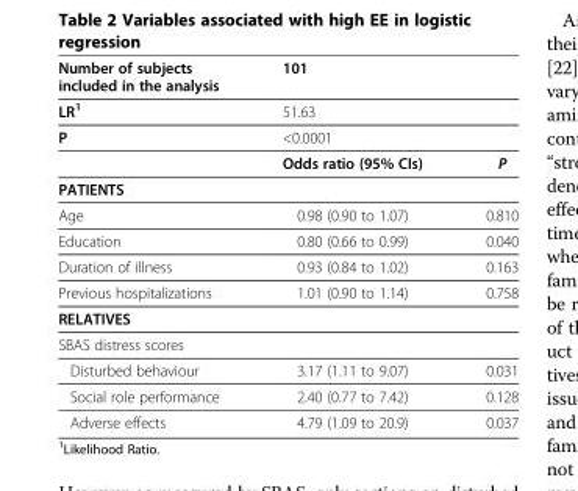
<table><thead><tr><td rowspan="4">Number of subjects included in the analysis LR1 P</td><td rowspan="3" colspan="2">101 51.63 &lt;0.0001</td></tr><tr></tr><tr></tr><tr><td>Odds ratio (95% CIs)</td><td>P</td></tr></thead><tbody><tr><td colspan="3">PATIENTS</td></tr><tr><td>Age</td><td>0.98 (0.90 to 1.07)</td><td>0.810</td></tr><tr><td>Education</td><td>0.80 (0.66 to 0.99)</td><td>0.040</td></tr><tr><td>Duration of illness</td><td>0.93 (0.84 to 1.02)</td><td>0.163</td></tr><tr><td>Previous hospitalizations</td><td>1.01 (0.90 to 1.14)</td><td>0.758</td></tr><tr><td colspan="3">RELATIVES</td></tr><tr><td colspan="3">SBAS distress scores</td></tr><tr><td>Disturbed behaviour</td><td>3.17 (1.11 to 9.07)</td><td>0.031</td></tr><tr><td>Social role performance</td><td>2.40 (0.77 to 7.42)</td><td>0.128</td></tr><tr><td>Adverse effects</td><td>4.79 (1.09 to 20.9)</td><td>0.037</td></tr></tbody></table>